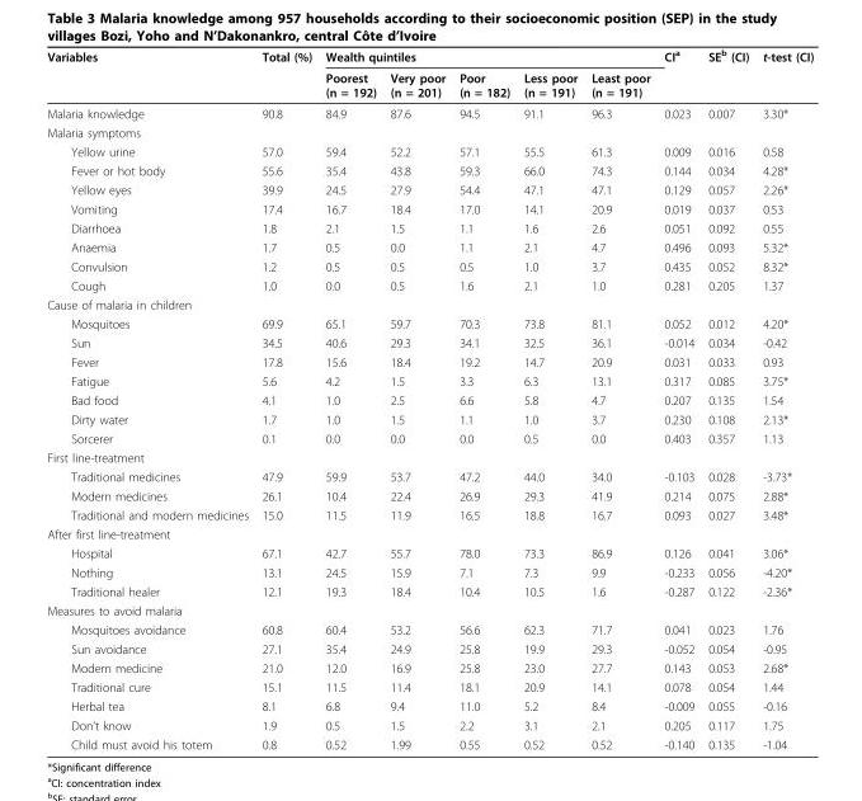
<table><thead><tr><td rowspan="2">Variables</td><td rowspan="2">Total (%)</td><td colspan="5">Wealth quintiles</td><td rowspan="2">CI<sup>a</sup></td><td rowspan="2">SE<sup>b</sup> (CI)</td><td rowspan="2">t-test (CI)</td></tr><tr><td>Poorest (n = 192)</td><td>Very poor (n = 201)</td><td>Poor (n = 182)</td><td>Less poor (n = 191)</td><td>Least poor (n = 191)</td></tr></thead><tbody><tr><td>Malaria knowledge</td><td>90.8</td><td>84.9</td><td>87.6</td><td>94.5</td><td>91.1</td><td>96.3</td><td>0.023</td><td>0.007</td><td>3.30*</td></tr><tr><td colspan="10">Malaria symptoms</td></tr><tr><td>Yellow urine</td><td>57.0</td><td>59.4</td><td>52.2</td><td>57.1</td><td>55.5</td><td>61.3</td><td>0.009</td><td>0.016</td><td>0.58</td></tr><tr><td>Fever or hot body</td><td>55.6</td><td>35.4</td><td>43.8</td><td>59.3</td><td>66.0</td><td>74.3</td><td>0.144</td><td>0.034</td><td>4.28*</td></tr><tr><td>Yellow eyes</td><td>39.9</td><td>24.5</td><td>27.9</td><td>54.4</td><td>47.1</td><td>47.1</td><td>0.129</td><td>0.057</td><td>2.26*</td></tr><tr><td>Vomiting</td><td>17.4</td><td>16.7</td><td>18.4</td><td>17.0</td><td>14.1</td><td>20.9</td><td>0.019</td><td>0.037</td><td>0.53</td></tr><tr><td>Diarrhoea</td><td>1.8</td><td>2.1</td><td>1.5</td><td>1.1</td><td>1.6</td><td>2.6</td><td>0.051</td><td>0.092</td><td>0.55</td></tr><tr><td>Anaemia</td><td>1.7</td><td>0.5</td><td>0.0</td><td>1.1</td><td>2.1</td><td>4.7</td><td>0.496</td><td>0.093</td><td>5.32*</td></tr><tr><td>Convulsion</td><td>1.2</td><td>0.5</td><td>0.5</td><td>0.5</td><td>1.0</td><td>3.7</td><td>0.435</td><td>0.052</td><td>8.32*</td></tr><tr><td>Cough</td><td>1.0</td><td>0.0</td><td>0.5</td><td>1.6</td><td>2.1</td><td>1.0</td><td>0.281</td><td>0.205</td><td>1.37</td></tr><tr><td colspan="10">Cause of malaria in children</td></tr><tr><td>Mosquitoes</td><td>69.9</td><td>65.1</td><td>59.7</td><td>70.3</td><td>73.8</td><td>81.1</td><td>0.052</td><td>0.012</td><td>4.20*</td></tr><tr><td>Sun</td><td>34.5</td><td>40.6</td><td>29.3</td><td>34.1</td><td>32.5</td><td>36.1</td><td>-0.014</td><td>0.034</td><td>-0.42</td></tr><tr><td>Fever</td><td>17.8</td><td>15.6</td><td>18.4</td><td>19.2</td><td>14.7</td><td>20.9</td><td>0.031</td><td>0.033</td><td>0.93</td></tr><tr><td>Fatigue</td><td>5.6</td><td>4.2</td><td>1.5</td><td>3.3</td><td>6.3</td><td>13.1</td><td>0.317</td><td>0.085</td><td>3.75*</td></tr><tr><td>Bad food</td><td>4.1</td><td>1.0</td><td>2.5</td><td>6.6</td><td>5.8</td><td>4.7</td><td>0.207</td><td>0.135</td><td>1.54</td></tr><tr><td>Dirty water</td><td>1.7</td><td>1.0</td><td>1.5</td><td>1.1</td><td>1.0</td><td>3.7</td><td>0.230</td><td>0.108</td><td>2.13*</td></tr><tr><td>Sorcerer</td><td>0.1</td><td>0.0</td><td>0.0</td><td>0.0</td><td>0.5</td><td>0.0</td><td>0.403</td><td>0.357</td><td>1.13</td></tr><tr><td colspan="10">First line-treatment</td></tr><tr><td>Traditional medicines</td><td>47.9</td><td>59.9</td><td>53.7</td><td>47.2</td><td>44.0</td><td>34.0</td><td>-0.103</td><td>0.028</td><td>-3.73*</td></tr><tr><td>Modern medicines</td><td>26.1</td><td>10.4</td><td>22.4</td><td>26.9</td><td>29.3</td><td>41.9</td><td>0.214</td><td>0.075</td><td>2.88*</td></tr><tr><td>Traditional and modern medicines</td><td>15.0</td><td>11.5</td><td>11.9</td><td>16.5</td><td>18.8</td><td>16.7</td><td>0.093</td><td>0.027</td><td>3.48*</td></tr><tr><td colspan="10">After first line-treatment</td></tr><tr><td>Hospital</td><td>67.1</td><td>42.7</td><td>55.7</td><td>78.0</td><td>73.3</td><td>86.9</td><td>0.126</td><td>0.041</td><td>3.06*</td></tr><tr><td>Nothing</td><td>13.1</td><td>24.5</td><td>15.9</td><td>7.1</td><td>7.3</td><td>9.9</td><td>-0.233</td><td>0.056</td><td>-4.20*</td></tr><tr><td>Traditional healer</td><td>12.1</td><td>19.3</td><td>18.4</td><td>10.4</td><td>10.5</td><td>1.6</td><td>-0.287</td><td>0.122</td><td>-2.36*</td></tr><tr><td colspan="10">Measures to avoid malaria</td></tr><tr><td>Mosquitoes avoidance</td><td>60.8</td><td>60.4</td><td>53.2</td><td>56.6</td><td>62.3</td><td>71.7</td><td>0.041</td><td>0.023</td><td>1.76</td></tr><tr><td>Sun avoidance</td><td>27.1</td><td>35.4</td><td>24.9</td><td>25.8</td><td>19.9</td><td>29.3</td><td>-0.052</td><td>0.054</td><td>-0.95</td></tr><tr><td>Modern medicine</td><td>21.0</td><td>12.0</td><td>16.9</td><td>25.8</td><td>23.0</td><td>27.7</td><td>0.143</td><td>0.053</td><td>2.68*</td></tr><tr><td>Traditional cure</td><td>15.1</td><td>11.5</td><td>11.4</td><td>18.1</td><td>20.9</td><td>14.1</td><td>0.078</td><td>0.054</td><td>1.44</td></tr><tr><td>Herbal tea</td><td>8.1</td><td>6.8</td><td>9.4</td><td>11.0</td><td>5.2</td><td>8.4</td><td>-0.009</td><td>0.055</td><td>-0.16</td></tr><tr><td>Don’t know</td><td>1.9</td><td>0.5</td><td>1.5</td><td>2.2</td><td>3.1</td><td>2.1</td><td>0.205</td><td>0.117</td><td>1.75</td></tr><tr><td>Child must avoid his totem</td><td>0.8</td><td>0.52</td><td>1.99</td><td>0.55</td><td>0.52</td><td>0.52</td><td>-0.140</td><td>0.135</td><td>-1.04</td></tr></tbody></table>